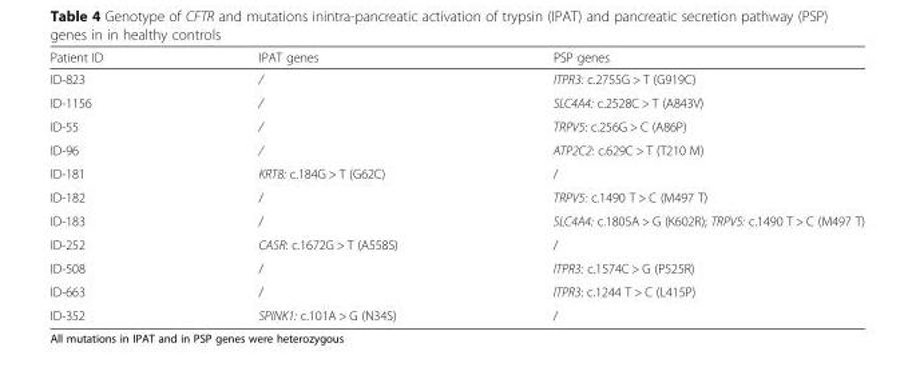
<table><thead><tr><td>Patient ID</td><td>IPAT genes</td><td>PSP genes</td></tr></thead><tbody><tr><td>ID-823</td><td>/</td><td>ITPR3: c.2755G &gt; T (G919C)</td></tr><tr><td>ID-1156</td><td>/</td><td>SLC4A4: c.2528C &gt; T (A843V)</td></tr><tr><td>ID-55</td><td>/</td><td>TRPV5: c.256G &gt; C (A86P)</td></tr><tr><td>ID-96</td><td>/</td><td>ATP2C2: c.629C &gt; T (T210 M)</td></tr><tr><td>ID-181</td><td>KRT8: c.184G &gt; T (G62C)</td><td>/</td></tr><tr><td>ID-182</td><td>/</td><td>TRPV5: c.1490 T &gt; C (M497 T)</td></tr><tr><td>ID-183</td><td>/</td><td>SLC4A4: c.1805A &gt; G (K602R); TRPV5: c.1490 T &gt; C (M497 T)</td></tr><tr><td>ID-252</td><td>CASR: c.1672G &gt; T (A558S)</td><td>/</td></tr><tr><td>ID-508</td><td>/</td><td>ITPR3: c.1574C &gt; G (P525R)</td></tr><tr><td>ID-663</td><td>/</td><td>ITPR3: c.1244 T &gt; C (L415P)</td></tr><tr><td>ID-352</td><td>SPINK1: c.101A &gt; G (N34S)</td><td>/</td></tr></tbody></table>